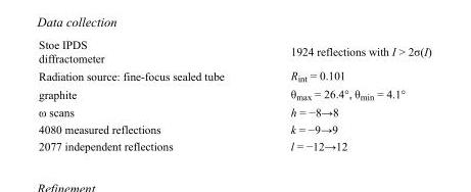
<table><tbody><tr><td>Stoe IPDS diffractometer</td><td>1924 reflections with I &gt; 2σ(I)</td></tr><tr><td>Radiation source: fine-focus sealed tube</td><td>R<sub>int</sub> = 0.101</td></tr><tr><td>graphite</td><td>θ<sub>max</sub> = 26.4°, θ<sub>min</sub> = 4.1°</td></tr><tr><td>ω scans</td><td>h = −8→8</td></tr><tr><td>4080 measured reflections</td><td>k = −9→9</td></tr><tr><td>2077 independent reflections</td><td>l = −12→12</td></tr></tbody></table>